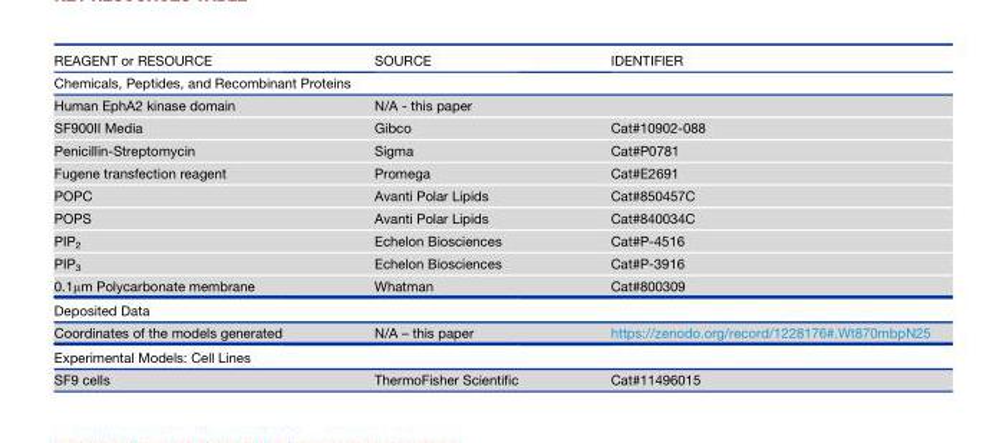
<table><thead><tr><td>REAGENT or RESOURCE</td><td>SOURCE</td><td>IDENTIFIER</td></tr></thead><tbody><tr><td colspan="3">Chemicals, Peptides, and Recombinant Proteins</td></tr><tr><td>Human EphA2 kinase domain</td><td>N/A - this paper</td><td></td></tr><tr><td>SF900II Media</td><td>Gibco</td><td>Cat#10902-088</td></tr><tr><td>Penicillin-Streptomycin</td><td>Sigma</td><td>Cat#P0781</td></tr><tr><td>Fugene transfection reagent</td><td>Promega</td><td>Cat#E2691</td></tr><tr><td>POPC</td><td>Avanti Polar Lipids</td><td>Cat#850457C</td></tr><tr><td>POPS</td><td>Avanti Polar Lipids</td><td>Cat#840034C</td></tr><tr><td>PIP<sub>2</sub></td><td>Echelon Biosciences</td><td>Cat#P-4516</td></tr><tr><td>PIP<sub>3</sub></td><td>Echelon Biosciences</td><td>Cat#P-3916</td></tr><tr><td>0.1μm Polycarbonate membrane</td><td>Whatman</td><td>Cat#800309</td></tr><tr><td colspan="3">Deposited Data</td></tr><tr><td>Coordinates of the models generated</td><td>N/A – this paper</td><td>https://zenodo.org/record/1228176#.Wt870mbpN25</td></tr><tr><td colspan="3">Experimental Models: Cell Lines</td></tr><tr><td>SF9 cells</td><td>ThermoFisher Scientific</td><td>Cat#11496015</td></tr></tbody></table>